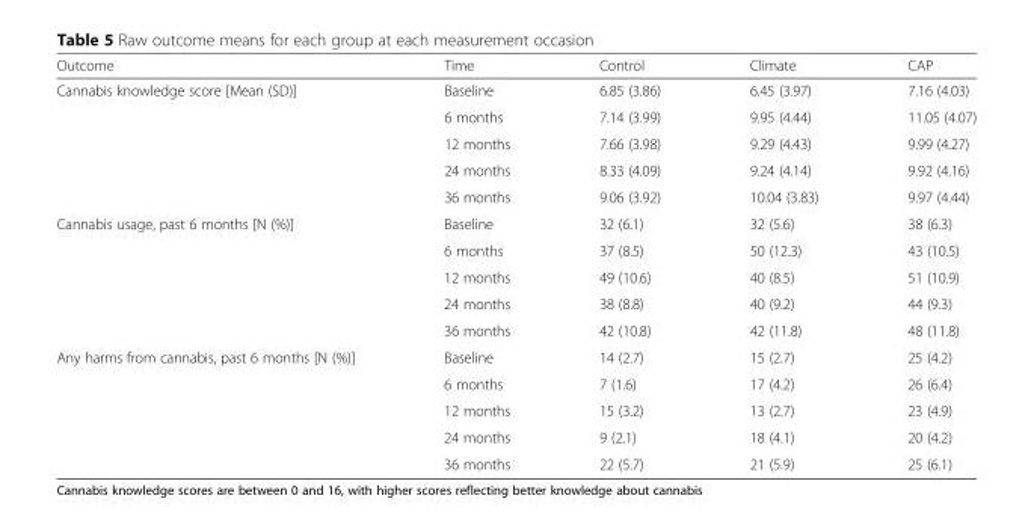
<table><thead><tr><td>Outcome</td><td>Time</td><td>Control</td><td>Climate</td><td>CAP</td></tr></thead><tbody><tr><td rowspan="5">Cannabis knowledge score [Mean (SD)]</td><td>Baseline</td><td>6.85 (3.86)</td><td>6.45 (3.97)</td><td>7.16 (4.03)</td></tr><tr><td>6 months</td><td>7.14 (3.99)</td><td>9.95 (4.44)</td><td>11.05 (4.07)</td></tr><tr><td>12 months</td><td>7.66 (3.98)</td><td>9.29 (4.43)</td><td>9.99 (4.27)</td></tr><tr><td>24 months</td><td>8.33 (4.09)</td><td>9.24 (4.14)</td><td>9.92 (4.16)</td></tr><tr><td>36 months</td><td>9.06 (3.92)</td><td>10.04 (3.83)</td><td>9.97 (4.44)</td></tr><tr><td rowspan="5">Cannabis usage, past 6 months [N (%)]</td><td>Baseline</td><td>32 (6.1)</td><td>32 (5.6)</td><td>38 (6.3)</td></tr><tr><td>6 months</td><td>37 (8.5)</td><td>50 (12.3)</td><td>43 (10.5)</td></tr><tr><td>12 months</td><td>49 (10.6)</td><td>40 (8.5)</td><td>51 (10.9)</td></tr><tr><td>24 months</td><td>38 (8.8)</td><td>40 (9.2)</td><td>44 (9.3)</td></tr><tr><td>36 months</td><td>42 (10.8)</td><td>42 (11.8)</td><td>48 (11.8)</td></tr><tr><td rowspan="5">Any harms from cannabis, past 6 months [N (%)]</td><td>Baseline</td><td>14 (2.7)</td><td>15 (2.7)</td><td>25 (4.2)</td></tr><tr><td>6 months</td><td>7 (1.6)</td><td>17 (4.2)</td><td>26 (6.4)</td></tr><tr><td>12 months</td><td>15 (3.2)</td><td>13 (2.7)</td><td>23 (4.9)</td></tr><tr><td>24 months</td><td>9 (2.1)</td><td>18 (4.1)</td><td>20 (4.2)</td></tr><tr><td>36 months</td><td>22 (5.7)</td><td>21 (5.9)</td><td>25 (6.1)</td></tr></tbody></table>